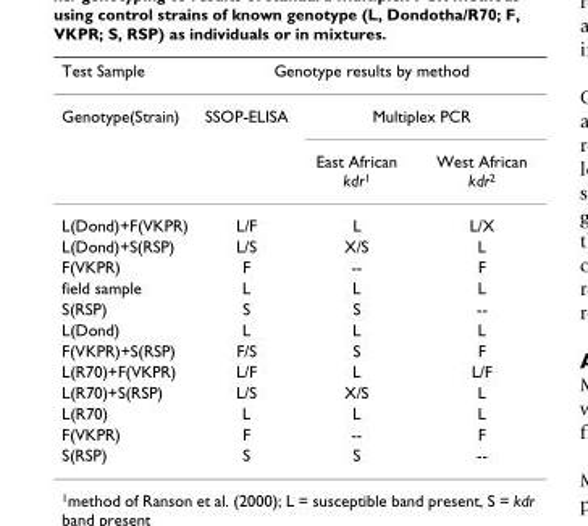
<table><thead><tr><td rowspan="3">Test Sample Genotype(Strain)</td><td colspan="3">Genotype results by method</td></tr><tr><td rowspan="2">SSOP-ELISA</td><td colspan="2">Multiplex PCR</td></tr><tr><td>East African kdr1</td><td>West African kdr2</td></tr></thead><tbody><tr><td>L(Dond)+F(VKPR)</td><td>L/F</td><td>L</td><td>L/X</td></tr><tr><td>L(Dond)+S(RSP)</td><td>L/S</td><td>X/S</td><td>L</td></tr><tr><td>F(VKPR)</td><td>F</td><td>--</td><td>F</td></tr><tr><td>field sample</td><td>L</td><td>L</td><td>L</td></tr><tr><td>S(RSP)</td><td>S</td><td>S</td><td>--</td></tr><tr><td>L(Dond)</td><td>L</td><td>L</td><td>L</td></tr><tr><td>F(VKPR)+S(RSP)</td><td>F/S</td><td>S</td><td>F</td></tr><tr><td>L(R70)+F(VKPR)</td><td>L/F</td><td>L</td><td>L/F</td></tr><tr><td>L(R70)+S(RSP)</td><td>L/S</td><td>X/S</td><td>L</td></tr><tr><td>L(R70)</td><td>L</td><td>L</td><td>L</td></tr><tr><td>F(VKPR)</td><td>F</td><td>--</td><td>F</td></tr><tr><td>S(RSP)</td><td>S</td><td>S</td><td>--</td></tr></tbody></table>